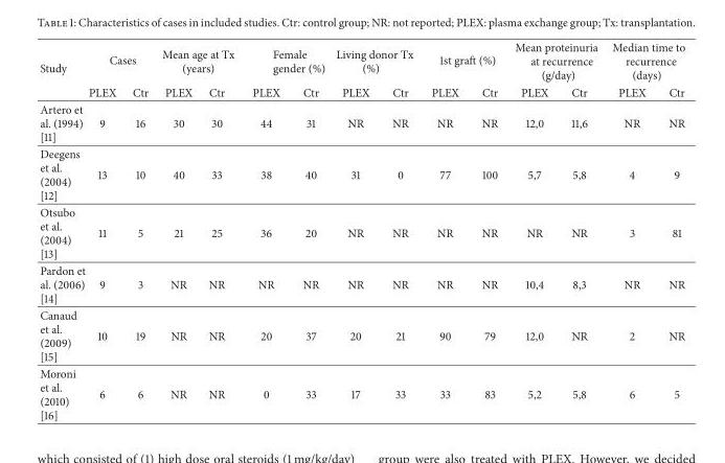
<table><thead><tr><td rowspan="2">Study</td><td colspan="2">Cases</td><td colspan="2">Mean age at Tx (years)</td><td colspan="2">Female gender (%)</td><td colspan="2">Living donor Tx (%)</td><td colspan="2">1st graft (%)</td><td colspan="2">Mean proteinuria at recurrence (g/day)</td><td colspan="2">Median time to recurrence (days)</td></tr><tr><td>PLEX</td><td>Ctr</td><td>PLEX</td><td>Ctr</td><td>PLEX</td><td>Ctr</td><td>PLEX</td><td>Ctr</td><td>PLEX</td><td>Ctr</td><td>PLEX</td><td>Ctr</td><td>PLEX</td><td>Ctr</td></tr></thead><tbody><tr><td>Artero et al. (1994) [11]</td><td>9</td><td>16</td><td>30</td><td>30</td><td>44</td><td>31</td><td>NR</td><td>NR</td><td>NR</td><td>NR</td><td>12,0</td><td>11,6</td><td>NR</td><td>NR</td></tr><tr><td>Deegens et al. (2004) [12]</td><td>13</td><td>10</td><td>40</td><td>33</td><td>38</td><td>40</td><td>31</td><td>0</td><td>77</td><td>100</td><td>5,7</td><td>5,8</td><td>4</td><td>9</td></tr><tr><td>Otsubo et al. (2004) [13]</td><td>11</td><td>5</td><td>21</td><td>25</td><td>36</td><td>20</td><td>NR</td><td>NR</td><td>NR</td><td>NR</td><td>NR</td><td>NR</td><td>3</td><td>81</td></tr><tr><td>Pardon et al. (2006) [14]</td><td>9</td><td>3</td><td>NR</td><td>NR</td><td>NR</td><td>NR</td><td>NR</td><td>NR</td><td>NR</td><td>NR</td><td>10,4</td><td>8,3</td><td>NR</td><td>NR</td></tr><tr><td>Canaud et al. (2009) [15]</td><td>10</td><td>19</td><td>NR</td><td>NR</td><td>20</td><td>37</td><td>20</td><td>21</td><td>90</td><td>79</td><td>12,0</td><td>NR</td><td>2</td><td>NR</td></tr><tr><td>Moroni et al. (2010) [16]</td><td>6</td><td>6</td><td>NR</td><td>NR</td><td>0</td><td>33</td><td>17</td><td>33</td><td>33</td><td>83</td><td>5,2</td><td>5,8</td><td>6</td><td>5</td></tr></tbody></table>